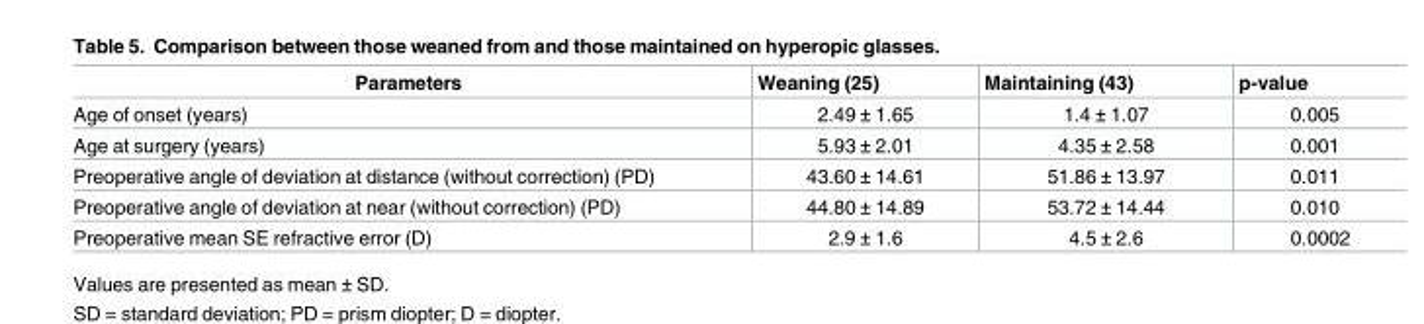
<table><thead><tr><td>Parameters</td><td>Weaning (25)</td><td>Maintaining (43)</td><td>p-value</td></tr></thead><tbody><tr><td>Age of onset (years)</td><td>2.49 ± 1.65</td><td>1.4 ± 1.07</td><td>0.005</td></tr><tr><td>Age at surgery (years)</td><td>5.93 ± 2.01</td><td>4.35 ± 2.58</td><td>0.001</td></tr><tr><td>Preoperative angle of deviation at distance (without correction) (PD)</td><td>43.60 ± 14.61</td><td>51.86 ± 13.97</td><td>0.011</td></tr><tr><td>Preoperative angle of deviation at near (without correction) (PD)</td><td>44.80 ± 14.89</td><td>53.72 ± 14.44</td><td>0.010</td></tr><tr><td>Preoperative mean SE refractive error (D)</td><td>2.9 ± 1.6</td><td>4.5 ± 2.6</td><td>0.0002</td></tr></tbody></table>